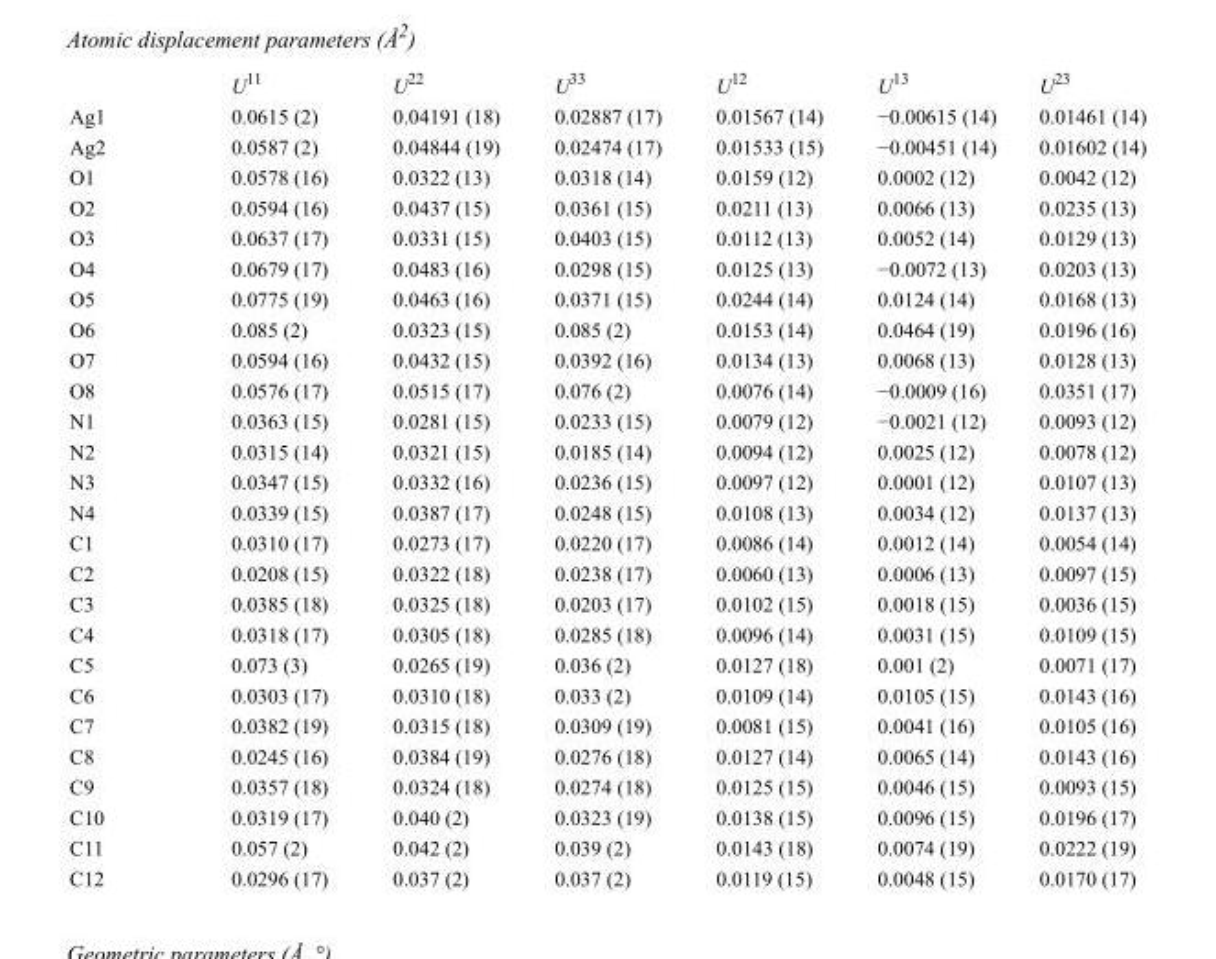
<table><thead><tr><td></td><td>U<sup>11</sup></td><td>U<sup>22</sup></td><td>U<sup>33</sup></td><td>U<sup>12</sup></td><td>U<sup>13</sup></td><td>U<sup>23</sup></td></tr></thead><tbody><tr><td>Ag1</td><td>0.0615 (2)</td><td>0.04191 (18)</td><td>0.02887 (17)</td><td>0.01567 (14)</td><td>−0.00615 (14)</td><td>0.01461 (14)</td></tr><tr><td>Ag2</td><td>0.0587 (2)</td><td>0.04844 (19)</td><td>0.02474 (17)</td><td>0.01533 (15)</td><td>−0.00451 (14)</td><td>0.01602 (14)</td></tr><tr><td>O1</td><td>0.0578 (16)</td><td>0.0322 (13)</td><td>0.0318 (14)</td><td>0.0159 (12)</td><td>0.0002 (12)</td><td>0.0042 (12)</td></tr><tr><td>O2</td><td>0.0594 (16)</td><td>0.0437 (15)</td><td>0.0361 (15)</td><td>0.0211 (13)</td><td>0.0066 (13)</td><td>0.0235 (13)</td></tr><tr><td>O3</td><td>0.0637 (17)</td><td>0.0331 (15)</td><td>0.0403 (15)</td><td>0.0112 (13)</td><td>0.0052 (14)</td><td>0.0129 (13)</td></tr><tr><td>O4</td><td>0.0679 (17)</td><td>0.0483 (16)</td><td>0.0298 (15)</td><td>0.0125 (13)</td><td>−0.0072 (13)</td><td>0.0203 (13)</td></tr><tr><td>O5</td><td>0.0775 (19)</td><td>0.0463 (16)</td><td>0.0371 (15)</td><td>0.0244 (14)</td><td>0.0124 (14)</td><td>0.0168 (13)</td></tr><tr><td>O6</td><td>0.085 (2)</td><td>0.0323 (15)</td><td>0.085 (2)</td><td>0.0153 (14)</td><td>0.0464 (19)</td><td>0.0196 (16)</td></tr><tr><td>O7</td><td>0.0594 (16)</td><td>0.0432 (15)</td><td>0.0392 (16)</td><td>0.0134 (13)</td><td>0.0068 (13)</td><td>0.0128 (13)</td></tr><tr><td>O8</td><td>0.0576 (17)</td><td>0.0515 (17)</td><td>0.076 (2)</td><td>0.0076 (14)</td><td>−0.0009 (16)</td><td>0.0351 (17)</td></tr><tr><td>N1</td><td>0.0363 (15)</td><td>0.0281 (15)</td><td>0.0233 (15)</td><td>0.0079 (12)</td><td>−0.0021 (12)</td><td>0.0093 (12)</td></tr><tr><td>N2</td><td>0.0315 (14)</td><td>0.0321 (15)</td><td>0.0185 (14)</td><td>0.0094 (12)</td><td>0.0025 (12)</td><td>0.0078 (12)</td></tr><tr><td>N3</td><td>0.0347 (15)</td><td>0.0332 (16)</td><td>0.0236 (15)</td><td>0.0097 (12)</td><td>0.0001 (12)</td><td>0.0107 (13)</td></tr><tr><td>N4</td><td>0.0339 (15)</td><td>0.0387 (17)</td><td>0.0248 (15)</td><td>0.0108 (13)</td><td>0.0034 (12)</td><td>0.0137 (13)</td></tr><tr><td>C1</td><td>0.0310 (17)</td><td>0.0273 (17)</td><td>0.0220 (17)</td><td>0.0086 (14)</td><td>0.0012 (14)</td><td>0.0054 (14)</td></tr><tr><td>C2</td><td>0.0208 (15)</td><td>0.0322 (18)</td><td>0.0238 (17)</td><td>0.0060 (13)</td><td>0.0006 (13)</td><td>0.0097 (15)</td></tr><tr><td>C3</td><td>0.0385 (18)</td><td>0.0325 (18)</td><td>0.0203 (17)</td><td>0.0102 (15)</td><td>0.0018 (15)</td><td>0.0036 (15)</td></tr><tr><td>C4</td><td>0.0318 (17)</td><td>0.0305 (18)</td><td>0.0285 (18)</td><td>0.0096 (14)</td><td>0.0031 (15)</td><td>0.0109 (15)</td></tr><tr><td>C5</td><td>0.073 (3)</td><td>0.0265 (19)</td><td>0.036 (2)</td><td>0.0127 (18)</td><td>0.001 (2)</td><td>0.0071 (17)</td></tr><tr><td>C6</td><td>0.0303 (17)</td><td>0.0310 (18)</td><td>0.033 (2)</td><td>0.0109 (14)</td><td>0.0105 (15)</td><td>0.0143 (16)</td></tr><tr><td>C7</td><td>0.0382 (19)</td><td>0.0315 (18)</td><td>0.0309 (19)</td><td>0.0081 (15)</td><td>0.0041 (16)</td><td>0.0105 (16)</td></tr><tr><td>C8</td><td>0.0245 (16)</td><td>0.0384 (19)</td><td>0.0276 (18)</td><td>0.0127 (14)</td><td>0.0065 (14)</td><td>0.0143 (16)</td></tr><tr><td>C9</td><td>0.0357 (18)</td><td>0.0324 (18)</td><td>0.0274 (18)</td><td>0.0125 (15)</td><td>0.0046 (15)</td><td>0.0093 (15)</td></tr><tr><td>C10</td><td>0.0319 (17)</td><td>0.040 (2)</td><td>0.0323 (19)</td><td>0.0138 (15)</td><td>0.0096 (15)</td><td>0.0196 (17)</td></tr><tr><td>C11</td><td>0.057 (2)</td><td>0.042 (2)</td><td>0.039 (2)</td><td>0.0143 (18)</td><td>0.0074 (19)</td><td>0.0222 (19)</td></tr><tr><td>C12</td><td>0.0296 (17)</td><td>0.037 (2)</td><td>0.037 (2)</td><td>0.0119 (15)</td><td>0.0048 (15)</td><td>0.0170 (17)</td></tr></tbody></table>